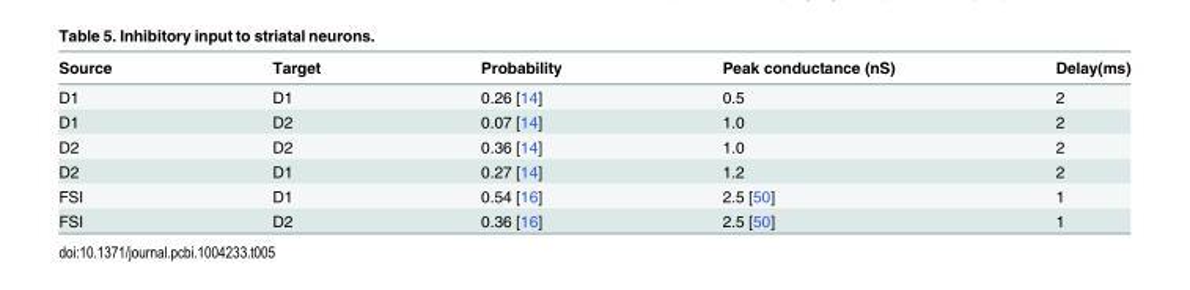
<table><thead><tr><td>Source</td><td>Target</td><td>Probability</td><td>Peak conductance (nS)</td><td>Delay(ms)</td></tr></thead><tbody><tr><td>D1</td><td>D1</td><td>0.26 [14]</td><td>0.5</td><td>2</td></tr><tr><td>D1</td><td>D2</td><td>0.07 [14]</td><td>1.0</td><td>2</td></tr><tr><td>D2</td><td>D2</td><td>0.36 [14]</td><td>1.0</td><td>2</td></tr><tr><td>D2</td><td>D1</td><td>0.27 [14]</td><td>1.2</td><td>2</td></tr><tr><td>FSI</td><td>D1</td><td>0.54 [16]</td><td>2.5 [50]</td><td>1</td></tr><tr><td>FSI</td><td>D2</td><td>0.36 [16]</td><td>2.5 [50]</td><td>1</td></tr></tbody></table>